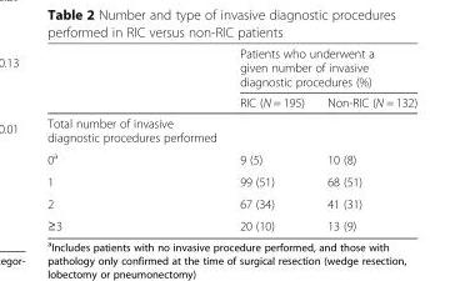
<table><thead><tr><td rowspan="2"></td><td colspan="2">Patients who underwent a given number of invasive diagnostic procedures (%)</td></tr><tr><td>RIC (N = 195)</td><td>Non-RIC (N = 132)</td></tr></thead><tbody><tr><td colspan="3">Total number of invasive diagnostic procedures performed</td></tr><tr><td>0<sup>a</sup></td><td>9 (5)</td><td>10 (8)</td></tr><tr><td>1</td><td>99 (51)</td><td>68 (51)</td></tr><tr><td>2</td><td>67 (34)</td><td>41 (31)</td></tr><tr><td>≥3</td><td>20 (10)</td><td>13 (9)</td></tr></tbody></table>